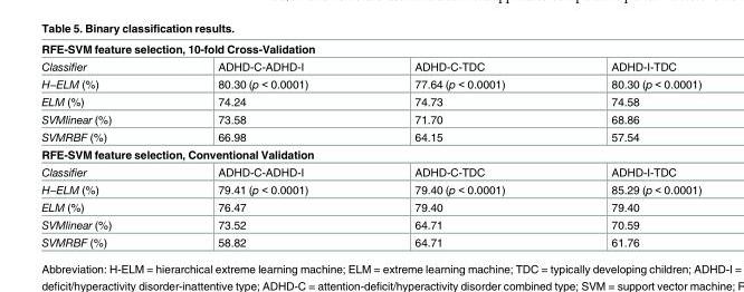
<table><tbody><tr><td colspan="4">RFE-SVM feature selection, 10-fold Cross-Validation</td></tr><tr><td>Classifier</td><td>ADHD-C-ADHD-I</td><td>ADHD-C-TDC</td><td>ADHD-I-TDC</td></tr><tr><td>H−ELM (%)</td><td>80.30 (p &lt; 0.0001)</td><td>77.64 (p &lt; 0.0001)</td><td>80.30 (p &lt; 0.0001)</td></tr><tr><td>ELM (%)</td><td>74.24</td><td>74.73</td><td>74.58</td></tr><tr><td>SVMlinear (%)</td><td>73.58</td><td>71.70</td><td>68.86</td></tr><tr><td>SVMRBF (%)</td><td>66.98</td><td>64.15</td><td>57.54</td></tr><tr><td colspan="4">RFE-SVM feature selection, Conventional Validation</td></tr><tr><td>Classifier</td><td>ADHD-C-ADHD-I</td><td>ADHD-C-TDC</td><td>ADHD-I-TDC</td></tr><tr><td>H−ELM (%)</td><td>79.41 (p &lt; 0.0001)</td><td>79.40 (p &lt; 0.0001)</td><td>85.29 (p &lt; 0.0001)</td></tr><tr><td>ELM (%)</td><td>76.47</td><td>79.40</td><td>79.40</td></tr><tr><td>SVMlinear (%)</td><td>73.52</td><td>64.71</td><td>70.59</td></tr><tr><td>SVMRBF (%)</td><td>58.82</td><td>64.71</td><td>61.76</td></tr></tbody></table>